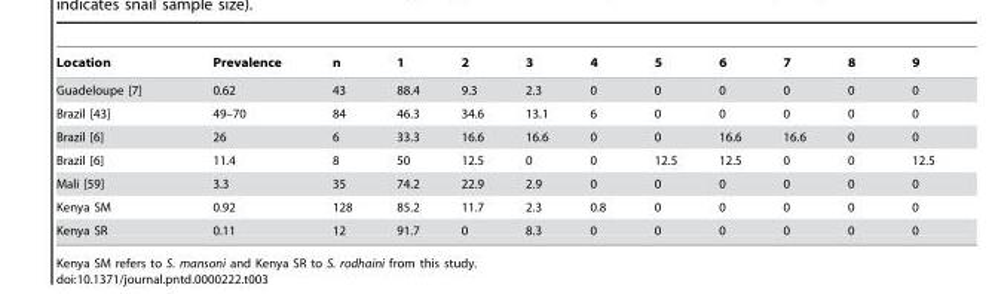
<table><thead><tr><td>Location</td><td>Prevalence</td><td>n</td><td>1</td><td>2</td><td>3</td><td>4</td><td>5</td><td>6</td><td>7</td><td>8</td><td>9</td></tr></thead><tbody><tr><td>Guadeloupe [7]</td><td>0.62</td><td>43</td><td>88.4</td><td>9.3</td><td>2.3</td><td>0</td><td>0</td><td>0</td><td>0</td><td>0</td><td>0</td></tr><tr><td>Brazil [43]</td><td>49–70</td><td>84</td><td>46.3</td><td>34.6</td><td>13.1</td><td>6</td><td>0</td><td>0</td><td>0</td><td>0</td><td>0</td></tr><tr><td>Brazil [6]</td><td>26</td><td>6</td><td>33.3</td><td>16.6</td><td>16.6</td><td>0</td><td>0</td><td>16.6</td><td>16.6</td><td>0</td><td>0</td></tr><tr><td>Brazil [6]</td><td>11.4</td><td>8</td><td>50</td><td>12.5</td><td>0</td><td>0</td><td>12.5</td><td>12.5</td><td>0</td><td>0</td><td>12.5</td></tr><tr><td>Mali [59]</td><td>3.3</td><td>35</td><td>74.2</td><td>22.9</td><td>2.9</td><td>0</td><td>0</td><td>0</td><td>0</td><td>0</td><td>0</td></tr><tr><td>Kenya SM</td><td>0.92</td><td>128</td><td>85.2</td><td>11.7</td><td>2.3</td><td>0.8</td><td>0</td><td>0</td><td>0</td><td>0</td><td>0</td></tr><tr><td>Kenya SR</td><td>0.11</td><td>12</td><td>91.7</td><td>0</td><td>8.3</td><td>0</td><td>0</td><td>0</td><td>0</td><td>0</td><td>0</td></tr></tbody></table>